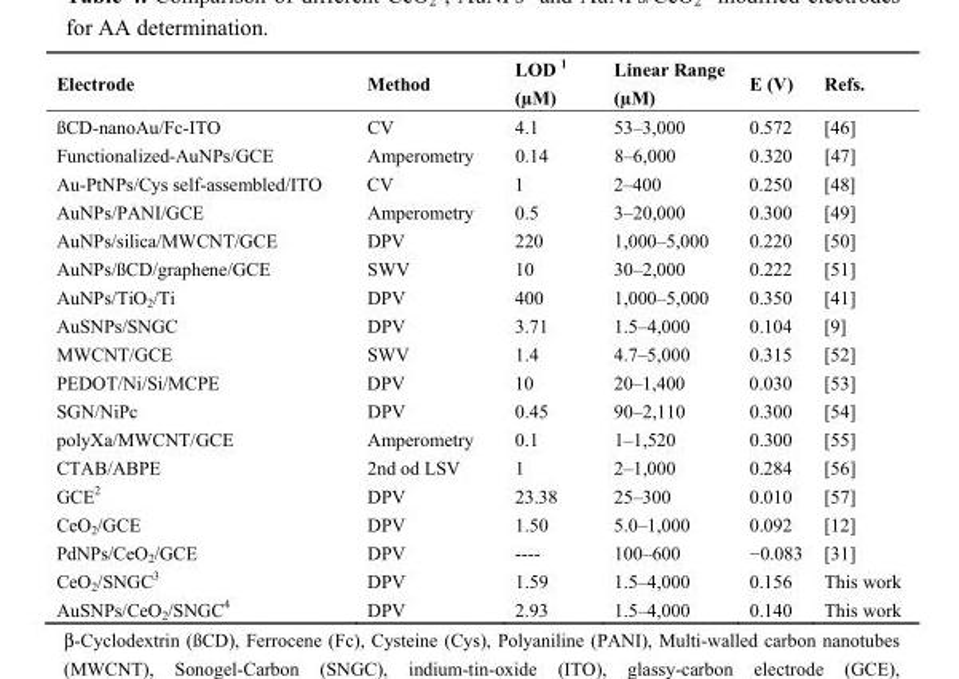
<table><thead><tr><td>Electrode</td><td>Method</td><td>LOD <sup>1</sup> (µM)</td><td>Linear Range (µM)</td><td>E (V)</td><td>Refs.</td></tr></thead><tbody><tr><td>ßCD-nanoAu/Fc-ITO</td><td>CV</td><td>4.1</td><td>53–3,000</td><td>0.572</td><td>[46]</td></tr><tr><td>Functionalized-AuNPs/GCE</td><td>Amperometry</td><td>0.14</td><td>8–6,000</td><td>0.320</td><td>[47]</td></tr><tr><td>Au-PtNPs/Cys self-assembled/ITO</td><td>CV</td><td>1</td><td>2–400</td><td>0.250</td><td>[48]</td></tr><tr><td>AuNPs/PANI/GCE</td><td>Amperometry</td><td>0.5</td><td>3–20,000</td><td>0.300</td><td>[49]</td></tr><tr><td>AuNPs/silica/MWCNT/GCE</td><td>DPV</td><td>220</td><td>1,000–5,000</td><td>0.220</td><td>[50]</td></tr><tr><td>AuNPs/ßCD/graphene/GCE</td><td>SWV</td><td>10</td><td>30–2,000</td><td>0.222</td><td>[51]</td></tr><tr><td>AuNPs/TiO<sub>2</sub>/Ti</td><td>DPV</td><td>400</td><td>1,000–5,000</td><td>0.350</td><td>[41]</td></tr><tr><td>AuSNPs/SNGC</td><td>DPV</td><td>3.71</td><td>1.5–4,000</td><td>0.104</td><td>[9]</td></tr><tr><td>MWCNT/GCE</td><td>SWV</td><td>1.4</td><td>4.7–5,000</td><td>0.315</td><td>[52]</td></tr><tr><td>PEDOT/Ni/Si/MCPE</td><td>DPV</td><td>10</td><td>20–1,400</td><td>0.030</td><td>[53]</td></tr><tr><td>SGN/NiPc</td><td>DPV</td><td>0.45</td><td>90–2,110</td><td>0.300</td><td>[54]</td></tr><tr><td>polyXa/MWCNT/GCE</td><td>Amperometry</td><td>0.1</td><td>1–1,520</td><td>0.300</td><td>[55]</td></tr><tr><td>CTAB/ABPE</td><td>2nd od LSV</td><td>1</td><td>2–1,000</td><td>0.284</td><td>[56]</td></tr><tr><td>GCE<sup>2</sup></td><td>DPV</td><td>23.38</td><td>25–300</td><td>0.010</td><td>[57]</td></tr><tr><td>CeO<sub>2</sub>/GCE</td><td>DPV</td><td>1.50</td><td>5.0–1,000</td><td>0.092</td><td>[12]</td></tr><tr><td>PdNPs/CeO<sub>2</sub>/GCE</td><td>DPV</td><td>----</td><td>100–600</td><td>−0.083</td><td>[31]</td></tr><tr><td>CeO<sub>2</sub>/SNGC<sup>3</sup></td><td>DPV</td><td>1.59</td><td>1.5–4,000</td><td>0.156</td><td>This work</td></tr><tr><td>AuSNPs/CeO<sub>2</sub>/SNGC<sup>4</sup></td><td>DPV</td><td>2.93</td><td>1.5–4,000</td><td>0.140</td><td>This work</td></tr></tbody></table>